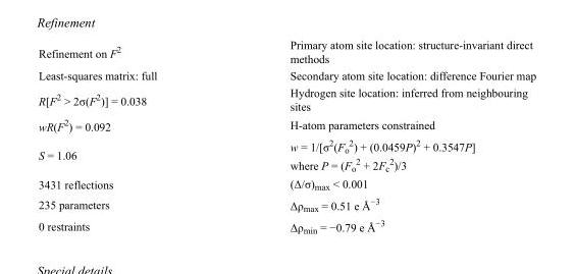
<table><tbody><tr><td>Refinement on F<sup>2</sup></td><td>Primary atom site location: structure-invariant direct methods</td></tr><tr><td>Least-squares matrix: full</td><td>Secondary atom site location: difference Fourier map</td></tr><tr><td>R[F<sup>2</sup> &gt; 2σ(F<sup>2</sup>)] = 0.038</td><td>Hydrogen site location: inferred from neighbouring sites</td></tr><tr><td>wR(F<sup>2</sup>) = 0.092</td><td>H-atom parameters constrained</td></tr><tr><td>S = 1.06</td><td>w = 1/[σ<sup>2</sup>(F<sub>o</sub> <sup>2</sup>) + (0.0459P)<sup>2</sup> + 0.3547P] where P = (F<sub>o</sub> <sup>2</sup> + 2F<sub>c</sub> <sup>2</sup>)/3</td></tr><tr><td>3431 reflections</td><td>(Δ/σ)<sub>max</sub> &lt; 0.001</td></tr><tr><td>235 parameters</td><td>Δρ<sub>max</sub> = 0.51 e Å<sup>−3</sup></td></tr><tr><td>0 restraints</td><td>Δρ<sub>min</sub> = −0.79 e Å<sup>−3</sup></td></tr></tbody></table>